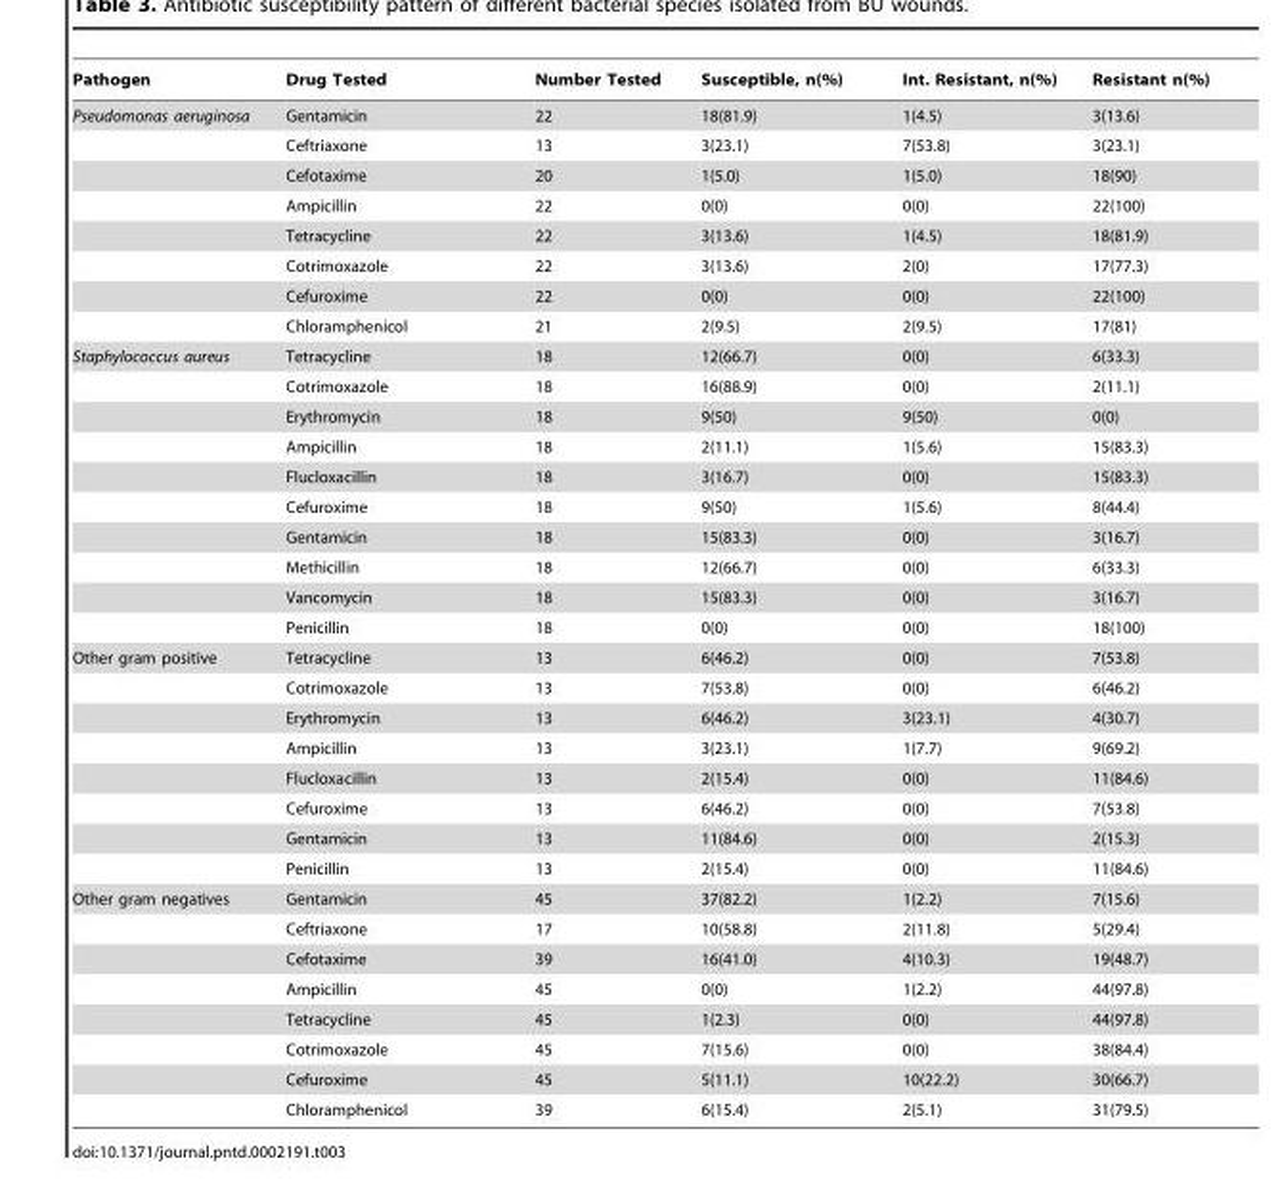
<table><thead><tr><td>Pathogen</td><td>Drug Tested</td><td>Number Tested</td><td>Susceptible, n(%)</td><td>Int. Resistant, n(%)</td><td>Resistant n(%)</td></tr></thead><tbody><tr><td rowspan="8">Pseudomonas aeruginosa</td><td>Gentamicin</td><td>22</td><td>18(81.9)</td><td>1(4.5)</td><td>3(13.6)</td></tr><tr><td>Ceftriaxone</td><td>13</td><td>3(23.1)</td><td>7(53.8)</td><td>3(23.1)</td></tr><tr><td>Cefotaxime</td><td>20</td><td>1(5.0)</td><td>1(5.0)</td><td>18(90)</td></tr><tr><td>Ampicillin</td><td>22</td><td>0(0)</td><td>0(0)</td><td>22(100)</td></tr><tr><td>Tetracycline</td><td>22</td><td>3(13.6)</td><td>1(4.5)</td><td>18(81.9)</td></tr><tr><td>Cotrimoxazole</td><td>22</td><td>3(13.6)</td><td>2(0)</td><td>17(77.3)</td></tr><tr><td>Cefuroxime</td><td>22</td><td>0(0)</td><td>0(0)</td><td>22(100)</td></tr><tr><td>Chloramphenicol</td><td>21</td><td>2(9.5)</td><td>2(9.5)</td><td>17(81)</td></tr><tr><td rowspan="10">Staphylococcus aureus</td><td>Tetracycline</td><td>18</td><td>12(66.7)</td><td>0(0)</td><td>6(33.3)</td></tr><tr><td>Cotrimoxazole</td><td>18</td><td>16(88.9)</td><td>0(0)</td><td>2(11.1)</td></tr><tr><td>Erythromycin</td><td>18</td><td>9(50)</td><td>9(50)</td><td>0(0)</td></tr><tr><td>Ampicillin</td><td>18</td><td>2(11.1)</td><td>1(5.6)</td><td>15(83.3)</td></tr><tr><td>Flucloxacillin</td><td>18</td><td>3(16.7)</td><td>0(0)</td><td>15(83.3)</td></tr><tr><td>Cefuroxime</td><td>18</td><td>9(50)</td><td>1(5.6)</td><td>8(44.4)</td></tr><tr><td>Gentamicin</td><td>18</td><td>15(83.3)</td><td>0(0)</td><td>3(16.7)</td></tr><tr><td>Methicillin</td><td>18</td><td>12(66.7)</td><td>0(0)</td><td>6(33.3)</td></tr><tr><td>Vancomycin</td><td>18</td><td>15(83.3)</td><td>0(0)</td><td>3(16.7)</td></tr><tr><td>Penicillin</td><td>18</td><td>0(0)</td><td>0(0)</td><td>18(100)</td></tr><tr><td rowspan="8">Other gram positive</td><td>Tetracycline</td><td>13</td><td>6(46.2)</td><td>0(0)</td><td>7(53.8)</td></tr><tr><td>Cotrimoxazole</td><td>13</td><td>7(53.8)</td><td>0(0)</td><td>6(46.2)</td></tr><tr><td>Erythromycin</td><td>13</td><td>6(46.2)</td><td>3(23.1)</td><td>4(30.7)</td></tr><tr><td>Ampicillin</td><td>13</td><td>3(23.1)</td><td>1(7.7)</td><td>9(69.2)</td></tr><tr><td>Flucloxacillin</td><td>13</td><td>2(15.4)</td><td>0(0)</td><td>11(84.6)</td></tr><tr><td>Cefuroxime</td><td>13</td><td>6(46.2)</td><td>0(0)</td><td>7(53.8)</td></tr><tr><td>Gentamicin</td><td>13</td><td>11(84.6)</td><td>0(0)</td><td>2(15.3)</td></tr><tr><td>Penicillin</td><td>13</td><td>2(15.4)</td><td>0(0)</td><td>11(84.6)</td></tr><tr><td rowspan="8">Other gram negatives</td><td>Gentamicin</td><td>45</td><td>37(82.2)</td><td>1(2.2)</td><td>7(15.6)</td></tr><tr><td>Ceftriaxone</td><td>17</td><td>10(58.8)</td><td>2(11.8)</td><td>5(29.4)</td></tr><tr><td>Cefotaxime</td><td>39</td><td>16(41.0)</td><td>4(10.3)</td><td>19(48.7)</td></tr><tr><td>Ampicillin</td><td>45</td><td>0(0)</td><td>1(2.2)</td><td>44(97.8)</td></tr><tr><td>Tetracycline</td><td>45</td><td>1(2.3)</td><td>0(0)</td><td>44(97.8)</td></tr><tr><td>Cotrimoxazole</td><td>45</td><td>7(15.6)</td><td>0(0)</td><td>38(84.4)</td></tr><tr><td>Cefuroxime</td><td>45</td><td>5(11.1)</td><td>10(22.2)</td><td>30(66.7)</td></tr><tr><td>Chloramphenicol</td><td>39</td><td>6(15.4)</td><td>2(5.1)</td><td>31(79.5)</td></tr></tbody></table>